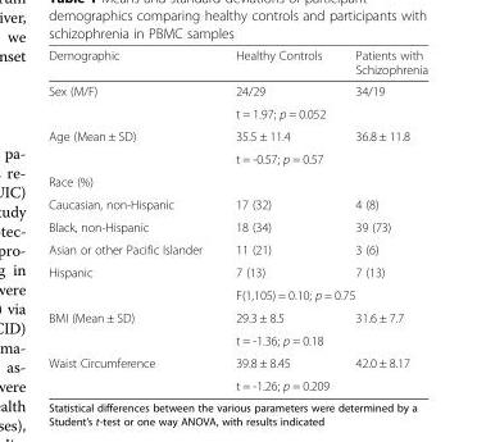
<table><thead><tr><td>Demographic</td><td>Healthy Controls</td><td>Patients with Schizophrenia</td></tr></thead><tbody><tr><td rowspan="2">Sex (M/F)</td><td>24/29</td><td>34/19</td></tr><tr><td colspan="2">t = 1.97; p = 0.052</td></tr><tr><td rowspan="2">Age (Mean ± SD)</td><td>35.5 ± 11.4</td><td>36.8 ± 11.8</td></tr><tr><td colspan="2">t = -0.57; p = 0.57</td></tr><tr><td colspan="3">Race (%)</td></tr><tr><td>Caucasian, non-Hispanic</td><td>17 (32)</td><td>4 (8)</td></tr><tr><td>Black, non-Hispanic</td><td>18 (34)</td><td>39 (73)</td></tr><tr><td>Asian or other Pacific Islander</td><td>11 (21)</td><td>3 (6)</td></tr><tr><td rowspan="2">Hispanic</td><td>7 (13)</td><td>7 (13)</td></tr><tr><td colspan="2">F(1,105) = 0.10; p = 0.75</td></tr><tr><td rowspan="2">BMI (Mean ± SD)</td><td>29.3 ± 8.5</td><td>31.6 ± 7.7</td></tr><tr><td colspan="2">t = -1.36; p = 0.18</td></tr><tr><td rowspan="2">Waist Circumference</td><td>39.8 ± 8.45</td><td>42.0 ± 8.17</td></tr><tr><td colspan="2">t = -1.26; p = 0.209</td></tr></tbody></table>